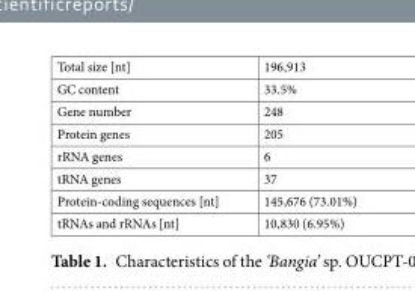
<table><tbody><tr><td>Total size [nt]</td><td>196,913</td></tr><tr><td>GC content</td><td>33.5%</td></tr><tr><td>Gene number</td><td>248</td></tr><tr><td>Protein genes</td><td>205</td></tr><tr><td>rRNA genes</td><td>6</td></tr><tr><td>tRNA genes</td><td>37</td></tr><tr><td>Protein-coding sequences [nt]</td><td>145,676 (73.01%)</td></tr><tr><td>tRNAs and rRNAs [nt]</td><td>10,830 (6.95%)</td></tr></tbody></table>